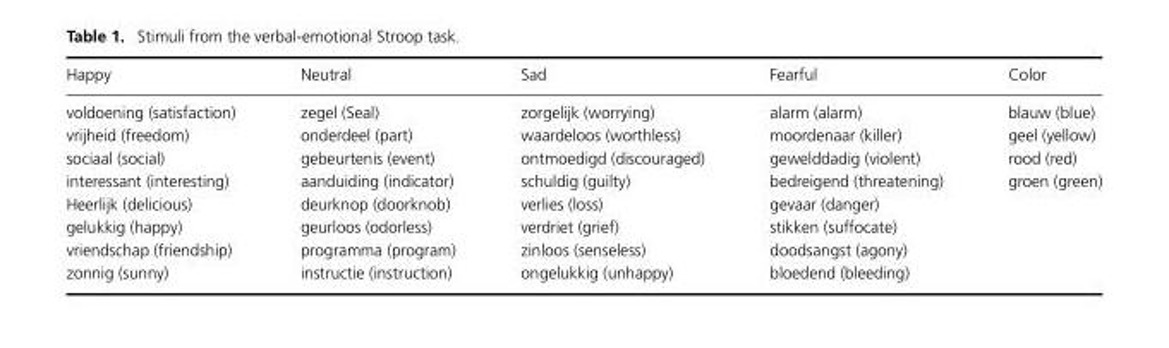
<table><thead><tr><td>Happy</td><td>Neutral</td><td>Sad</td><td>Fearful</td><td>Color</td></tr></thead><tbody><tr><td>voldoening (satisfaction)</td><td>zegel (Seal)</td><td>zorgelijk (worrying)</td><td>alarm (alarm)</td><td>blauw (blue)</td></tr><tr><td>vrijheid (freedom)</td><td>onderdeel (part)</td><td>waardeloos (worthless)</td><td>moordenaar (killer)</td><td>geel (yellow)</td></tr><tr><td>sociaal (social)</td><td>gebeurtenis (event)</td><td>ontmoedigd (discouraged)</td><td>gewelddadig (violent)</td><td>rood (red)</td></tr><tr><td>interessant (interesting)</td><td>aanduiding (indicator)</td><td>schuldig (guilty)</td><td>bedreigend (threatening)</td><td>groen (green)</td></tr><tr><td>Heerlijk (delicious)</td><td>deurknop (doorknob)</td><td>verlies (loss)</td><td>gevaar (danger)</td><td></td></tr><tr><td>gelukkig (happy)</td><td>geurloos (odorless)</td><td>verdriet (grief)</td><td>stikken (suffocate)</td><td></td></tr><tr><td>vriendschap (friendship)</td><td>programma (program)</td><td>zinloos (senseless)</td><td>doodsangst (agony)</td><td></td></tr><tr><td>zonnig (sunny)</td><td>instructie (instruction)</td><td>ongelukkig (unhappy)</td><td>bloedend (bleeding)</td><td></td></tr></tbody></table>